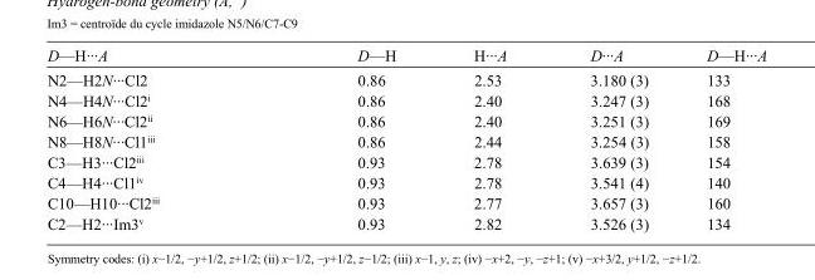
<table><tbody><tr><td>D—H···A</td><td>D—H</td><td>H···A</td><td>D···A</td><td>D—H···A</td></tr><tr><td>N2—H2N···Cl2</td><td>0.86</td><td>2.53</td><td>3.180 (3)</td><td>133</td></tr><tr><td>N4—H4N···Cl2<sup>i</sup></td><td>0.86</td><td>2.40</td><td>3.247 (3)</td><td>168</td></tr><tr><td>N6—H6N···Cl2<sup>ii</sup></td><td>0.86</td><td>2.40</td><td>3.251 (3)</td><td>169</td></tr><tr><td>N8—H8N···Cl1<sup>iii</sup></td><td>0.86</td><td>2.44</td><td>3.254 (3)</td><td>158</td></tr><tr><td>C3—H3···Cl2<sup>iii</sup></td><td>0.93</td><td>2.78</td><td>3.639 (3)</td><td>154</td></tr><tr><td>C4—H4···Cl1<sup>iv</sup></td><td>0.93</td><td>2.78</td><td>3.541 (4)</td><td>140</td></tr><tr><td>C10—H10···Cl2<sup>iii</sup></td><td>0.93</td><td>2.77</td><td>3.657 (3)</td><td>160</td></tr><tr><td>C2—H2···Im3<sup>v</sup></td><td>0.93</td><td>2.82</td><td>3.526 (3)</td><td>134</td></tr></tbody></table>